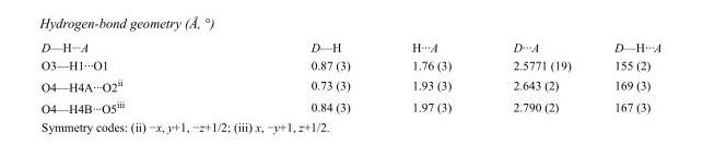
<table><tbody><tr><td>D—H···A</td><td>D—H</td><td>H···A</td><td>D···A</td><td>D—H···A</td></tr><tr><td>O3—H1···O1</td><td>0.87 (3)</td><td>1.76 (3)</td><td>2.5771 (19)</td><td>155 (2)</td></tr><tr><td>O4—H4A···O2<sup>ii</sup></td><td>0.73 (3)</td><td>1.93 (3)</td><td>2.643 (2)</td><td>169 (3)</td></tr><tr><td>O4—H4B···O5<sup>iii</sup></td><td>0.84 (3)</td><td>1.97 (3)</td><td>2.790 (2)</td><td>167 (3)</td></tr></tbody></table>